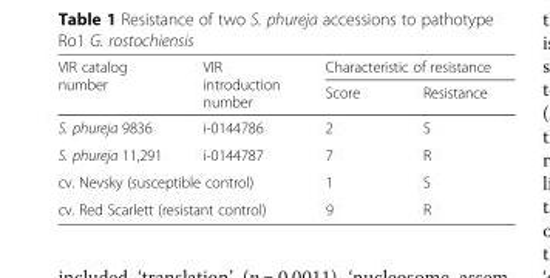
<table><thead><tr><td rowspan="2">VIR catalog number</td><td rowspan="2">VIR introduction number</td><td colspan="2">Characteristic of resistance</td></tr><tr><td>Score</td><td>Resistance</td></tr></thead><tbody><tr><td>S. phureja 9836</td><td>i-0144786</td><td>2</td><td>S</td></tr><tr><td>S. phureja 11,291</td><td>i-0144787</td><td>7</td><td>R</td></tr><tr><td colspan="2">cv. Nevsky (susceptible control)</td><td>1</td><td>S</td></tr><tr><td colspan="2">cv. Red Scarlett (resistant control)</td><td>9</td><td>R</td></tr></tbody></table>